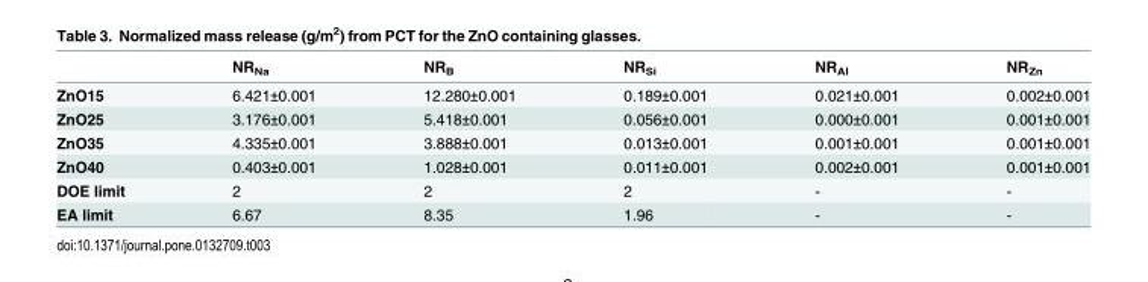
<table><thead><tr><td></td><td>NR<sub>Na</sub></td><td>NR<sub>B</sub></td><td>NR<sub>Si</sub></td><td>NR<sub>Al</sub></td><td>NR<sub>Zn</sub></td></tr></thead><tbody><tr><td>ZnO15</td><td>6.421±0.001</td><td>12.280±0.001</td><td>0.189±0.001</td><td>0.021±0.001</td><td>0.002±0.001</td></tr><tr><td>ZnO25</td><td>3.176±0.001</td><td>5.418±0.001</td><td>0.056±0.001</td><td>0.000±0.001</td><td>0.001±0.001</td></tr><tr><td>ZnO35</td><td>4.335±0.001</td><td>3.888±0.001</td><td>0.013±0.001</td><td>0.001±0.001</td><td>0.001±0.001</td></tr><tr><td>ZnO40</td><td>0.403±0.001</td><td>1.028±0.001</td><td>0.011±0.001</td><td>0.002±0.001</td><td>0.001±0.001</td></tr><tr><td>DOE limit</td><td>2</td><td>2</td><td>2</td><td>-</td><td>-</td></tr><tr><td>EA limit</td><td>6.67</td><td>8.35</td><td>1.96</td><td>-</td><td>-</td></tr></tbody></table>